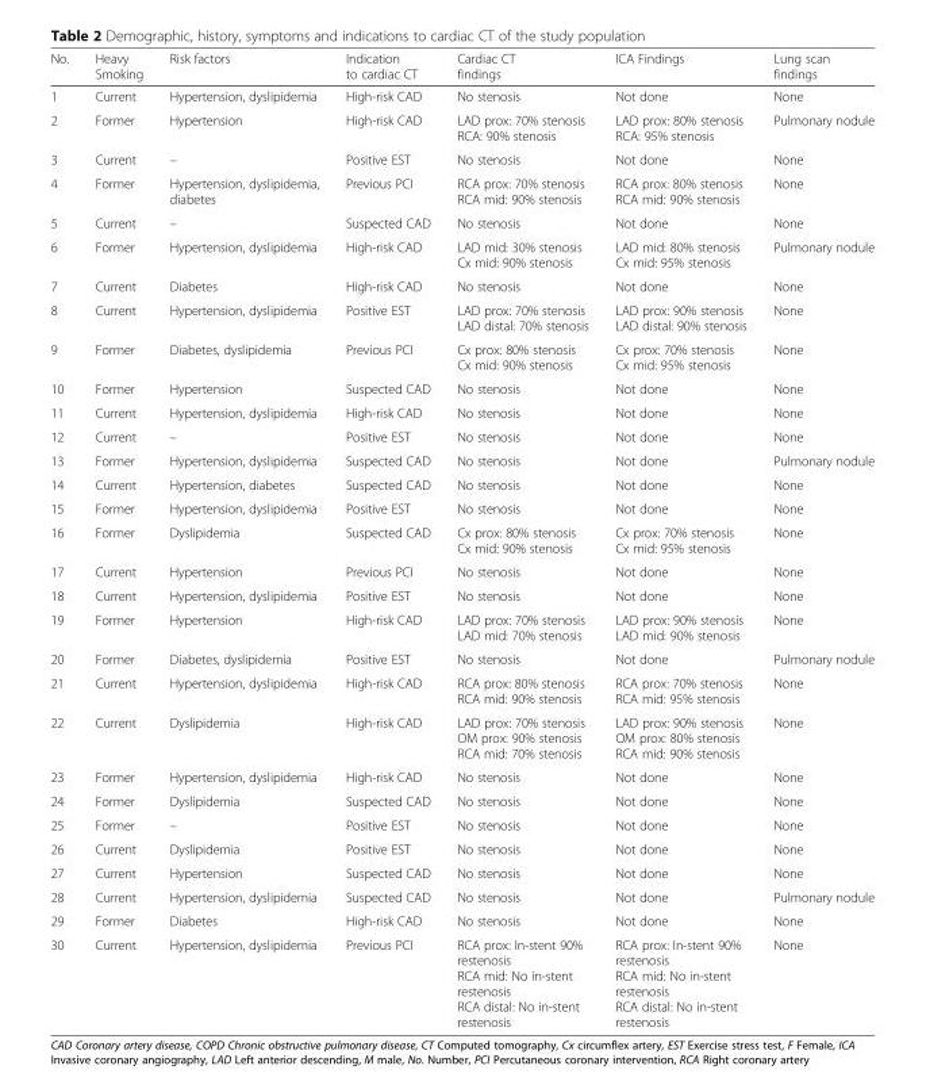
<table><thead><tr><td>No.</td><td>Heavy Smoking</td><td>Risk factors</td><td>Indication to cardiac CT</td><td>Cardiac CT findings</td><td>ICA Findings</td><td>Lung scan findings</td></tr></thead><tbody><tr><td>1</td><td>Current</td><td>Hypertension, dyslipidemia</td><td>High-risk CAD</td><td>No stenosis</td><td>Not done</td><td>None</td></tr><tr><td>2</td><td>Former</td><td>Hypertension</td><td>High-risk CAD</td><td>LAD prox: 70% stenosis RCA: 90% stenosis</td><td>LAD prox: 80% stenosis RCA: 95% stenosis</td><td>Pulmonary nodule</td></tr><tr><td>3</td><td>Current</td><td>–</td><td>Positive EST</td><td>No stenosis</td><td>Not done</td><td>None</td></tr><tr><td>4</td><td>Former</td><td>Hypertension, dyslipidemia, diabetes</td><td>Previous PCI</td><td>RCA prox: 70% stenosis RCA mid: 90% stenosis</td><td>RCA prox: 80% stenosis RCA mid: 90% stenosis</td><td>None</td></tr><tr><td>5</td><td>Current</td><td>–</td><td>Suspected CAD</td><td>No stenosis</td><td>Not done</td><td>None</td></tr><tr><td>6</td><td>Former</td><td>Hypertension, dyslipidemia</td><td>High-risk CAD</td><td>LAD mid: 30% stenosis Cx mid: 90% stenosis</td><td>LAD mid: 80% stenosis Cx mid: 95% stenosis</td><td>Pulmonary nodule</td></tr><tr><td>7</td><td>Current</td><td>Diabetes</td><td>High-risk CAD</td><td>No stenosis</td><td>Not done</td><td>None</td></tr><tr><td>8</td><td>Current</td><td>Hypertension, dyslipidemia</td><td>Positive EST</td><td>LAD prox: 70% stenosis LAD distal: 70% stenosis</td><td>LAD prox: 90% stenosis LAD distal: 90% stenosis</td><td>None</td></tr><tr><td>9</td><td>Former</td><td>Diabetes, dyslipidemia</td><td>Previous PCI</td><td>Cx prox: 80% stenosis Cx mid: 90% stenosis</td><td>Cx prox: 70% stenosis Cx mid: 95% stenosis</td><td>None</td></tr><tr><td>10</td><td>Former</td><td>Hypertension</td><td>Suspected CAD</td><td>No stenosis</td><td>Not done</td><td>None</td></tr><tr><td>11</td><td>Current</td><td>Hypertension, dyslipidemia</td><td>High-risk CAD</td><td>No stenosis</td><td>Not done</td><td>None</td></tr><tr><td>12</td><td>Current</td><td>–</td><td>Positive EST</td><td>No stenosis</td><td>Not done</td><td>None</td></tr><tr><td>13</td><td>Former</td><td>Hypertension, dyslipidemia</td><td>Suspected CAD</td><td>No stenosis</td><td>Not done</td><td>Pulmonary nodule</td></tr><tr><td>14</td><td>Current</td><td>Hypertension, diabetes</td><td>Suspected CAD</td><td>No stenosis</td><td>Not done</td><td>None</td></tr><tr><td>15</td><td>Former</td><td>Hypertension, dyslipidemia</td><td>Positive EST</td><td>No stenosis</td><td>Not done</td><td>None</td></tr><tr><td>16</td><td>Former</td><td>Dyslipidemia</td><td>Suspected CAD</td><td>Cx prox: 80% stenosis Cx mid: 90% stenosis</td><td>Cx prox: 70% stenosis Cx mid: 95% stenosis</td><td>None</td></tr><tr><td>17</td><td>Current</td><td>Hypertension</td><td>Previous PCI</td><td>No stenosis</td><td>Not done</td><td>None</td></tr><tr><td>18</td><td>Current</td><td>Hypertension, dyslipidemia</td><td>Positive EST</td><td>No stenosis</td><td>Not done</td><td>None</td></tr><tr><td>19</td><td>Former</td><td>Hypertension</td><td>High-risk CAD</td><td>LAD prox: 70% stenosis LAD mid: 70% stenosis</td><td>LAD prox: 90% stenosis LAD mid: 90% stenosis</td><td>None</td></tr><tr><td>20</td><td>Former</td><td>Diabetes, dyslipidemia</td><td>Positive EST</td><td>No stenosis</td><td>Not done</td><td>Pulmonary nodule</td></tr><tr><td>21</td><td>Current</td><td>Hypertension, dyslipidemia</td><td>High-risk CAD</td><td>RCA prox: 80% stenosis RCA mid: 90% stenosis</td><td>RCA prox: 70% stenosis RCA mid: 95% stenosis</td><td>None</td></tr><tr><td>22</td><td>Current</td><td>Dyslipidemia</td><td>High-risk CAD</td><td>LAD prox: 70% stenosis OM prox: 90% stenosis RCA mid: 70% stenosis</td><td>LAD prox: 90% stenosis OM prox: 80% stenosis RCA mid: 90% stenosis</td><td>None</td></tr><tr><td>23</td><td>Former</td><td>Hypertension, dyslipidemia</td><td>High-risk CAD</td><td>No stenosis</td><td>Not done</td><td>None</td></tr><tr><td>24</td><td>Former</td><td>Dyslipidemia</td><td>Suspected CAD</td><td>No stenosis</td><td>Not done</td><td>None</td></tr><tr><td>25</td><td>Former</td><td>–</td><td>Positive EST</td><td>No stenosis</td><td>Not done</td><td>None</td></tr><tr><td>26</td><td>Current</td><td>Dyslipidemia</td><td>Positive EST</td><td>No stenosis</td><td>Not done</td><td>None</td></tr><tr><td>27</td><td>Current</td><td>Hypertension</td><td>Suspected CAD</td><td>No stenosis</td><td>Not done</td><td>None</td></tr><tr><td>28</td><td>Current</td><td>Hypertension, dyslipidemia</td><td>Suspected CAD</td><td>No stenosis</td><td>Not done</td><td>Pulmonary nodule</td></tr><tr><td>29</td><td>Former</td><td>Diabetes</td><td>High-risk CAD</td><td>No stenosis</td><td>Not done</td><td>None</td></tr><tr><td>30</td><td>Current</td><td>Hypertension, dyslipidemia</td><td>Previous PCI</td><td>RCA prox: In-stent 90% restenosis RCA mid: No in-stent restenosis RCA distal: No in-stent restenosis</td><td>RCA prox: In-stent 90% restenosis RCA mid: No in-stent restenosis RCA distal: No in-stent restenosis</td><td>None</td></tr></tbody></table>